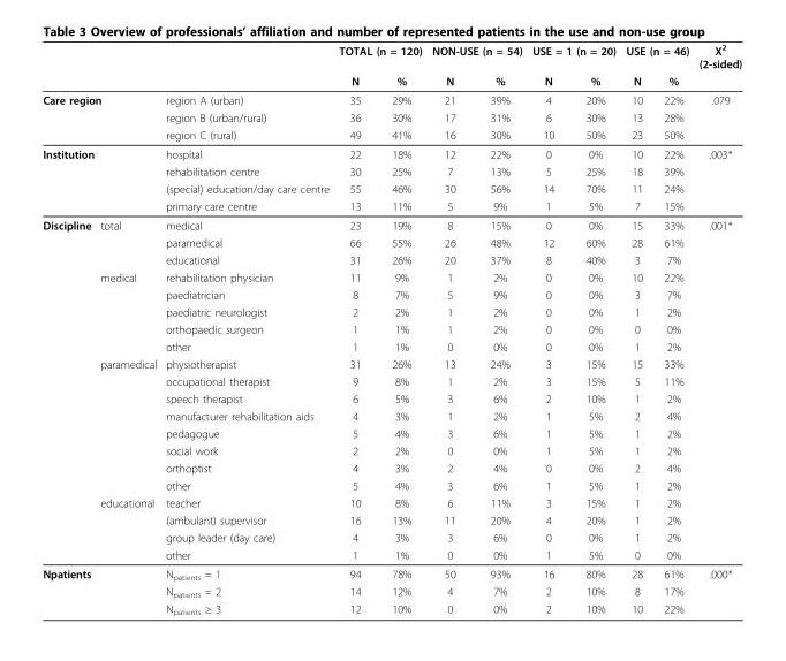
<table><thead><tr><td rowspan="2"></td><td rowspan="2"></td><td rowspan="2"></td><td colspan="2">TOTAL (n = 120)</td><td colspan="2">NON-USE (n = 54)</td><td colspan="2">USE = 1 (n = 20)</td><td colspan="2">USE (n = 46)</td><td rowspan="2">X<sup>2</sup> (2-sided)</td></tr><tr><td>N</td><td>%</td><td>N</td><td>%</td><td>N</td><td>%</td><td>N</td><td>%</td></tr></thead><tbody><tr><td colspan="2">Care region</td><td>region A (urban)</td><td>35</td><td>29%</td><td>21</td><td>39%</td><td>4</td><td>20%</td><td>10</td><td>22%</td><td>.079</td></tr><tr><td></td><td></td><td>region B (urban/rural)</td><td>36</td><td>30%</td><td>17</td><td>31%</td><td>6</td><td>30%</td><td>13</td><td>28%</td><td></td></tr><tr><td></td><td></td><td>region C (rural)</td><td>49</td><td>41%</td><td>16</td><td>30%</td><td>10</td><td>50%</td><td>23</td><td>50%</td><td></td></tr><tr><td colspan="2">Institution</td><td>hospital</td><td>22</td><td>18%</td><td>12</td><td>22%</td><td>0</td><td>0%</td><td>10</td><td>22%</td><td>.003*</td></tr><tr><td></td><td></td><td>rehabilitation centre</td><td>30</td><td>25%</td><td>7</td><td>13%</td><td>5</td><td>25%</td><td>18</td><td>39%</td><td></td></tr><tr><td></td><td></td><td>(special) education/day care centre</td><td>55</td><td>46%</td><td>30</td><td>56%</td><td>14</td><td>70%</td><td>11</td><td>24%</td><td></td></tr><tr><td></td><td></td><td>primary care centre</td><td>13</td><td>11%</td><td>5</td><td>9%</td><td>1</td><td>5%</td><td>7</td><td>15%</td><td></td></tr><tr><td rowspan="20">Discipline</td><td>total</td><td>medical</td><td>23</td><td>19%</td><td>8</td><td>15%</td><td>0</td><td>0%</td><td>15</td><td>33%</td><td>.001*</td></tr><tr><td></td><td>paramedical</td><td>66</td><td>55%</td><td>26</td><td>48%</td><td>12</td><td>60%</td><td>28</td><td>61%</td><td></td></tr><tr><td></td><td>educational</td><td>31</td><td>26%</td><td>20</td><td>37%</td><td>8</td><td>40%</td><td>3</td><td>7%</td><td></td></tr><tr><td>medical</td><td>rehabilitation physician</td><td>11</td><td>9%</td><td>1</td><td>2%</td><td>0</td><td>0%</td><td>10</td><td>22%</td><td></td></tr><tr><td></td><td>paediatrician</td><td>8</td><td>7%</td><td>5</td><td>9%</td><td>0</td><td>0%</td><td>3</td><td>7%</td><td></td></tr><tr><td></td><td>paediatric neurologist</td><td>2</td><td>2%</td><td>1</td><td>2%</td><td>0</td><td>0%</td><td>1</td><td>2%</td><td></td></tr><tr><td></td><td>orthopaedic surgeon</td><td>1</td><td>1%</td><td>1</td><td>2%</td><td>0</td><td>0%</td><td>0</td><td>0%</td><td></td></tr><tr><td></td><td>other</td><td>1</td><td>1%</td><td>0</td><td>0%</td><td>0</td><td>0%</td><td>1</td><td>2%</td><td></td></tr><tr><td>paramedical</td><td>physiotherapist</td><td>31</td><td>26%</td><td>13</td><td>24%</td><td>3</td><td>15%</td><td>15</td><td>33%</td><td></td></tr><tr><td></td><td>occupational therapist</td><td>9</td><td>8%</td><td>1</td><td>2%</td><td>3</td><td>15%</td><td>5</td><td>11%</td><td></td></tr><tr><td></td><td>speech therapist</td><td>6</td><td>5%</td><td>3</td><td>6%</td><td>2</td><td>10%</td><td>1</td><td>2%</td><td></td></tr><tr><td></td><td>manufacturer rehabilitation aids</td><td>4</td><td>3%</td><td>1</td><td>2%</td><td>1</td><td>5%</td><td>2</td><td>4%</td><td></td></tr><tr><td></td><td>pedagogue</td><td>5</td><td>4%</td><td>3</td><td>6%</td><td>1</td><td>5%</td><td>1</td><td>2%</td><td></td></tr><tr><td></td><td>social work</td><td>2</td><td>2%</td><td>0</td><td>0%</td><td>1</td><td>5%</td><td>1</td><td>2%</td><td></td></tr><tr><td></td><td>orthoptist</td><td>4</td><td>3%</td><td>2</td><td>4%</td><td>0</td><td>0%</td><td>2</td><td>4%</td><td></td></tr><tr><td></td><td>other</td><td>5</td><td>4%</td><td>3</td><td>6%</td><td>1</td><td>5%</td><td>1</td><td>2%</td><td></td></tr><tr><td>educational</td><td>teacher</td><td>10</td><td>8%</td><td>6</td><td>11%</td><td>3</td><td>15%</td><td>1</td><td>2%</td><td></td></tr><tr><td></td><td>(ambulant) supervisor</td><td>16</td><td>13%</td><td>11</td><td>20%</td><td>4</td><td>20%</td><td>1</td><td>2%</td><td></td></tr><tr><td></td><td>group leader (day care)</td><td>4</td><td>3%</td><td>3</td><td>6%</td><td>0</td><td>0%</td><td>1</td><td>2%</td><td></td></tr><tr><td></td><td>other</td><td>1</td><td>1%</td><td>0</td><td>0%</td><td>1</td><td>5%</td><td>0</td><td>0%</td><td></td></tr><tr><td colspan="2">Npatients</td><td>N<sub>patients</sub> = 1</td><td>94</td><td>78%</td><td>50</td><td>93%</td><td>16</td><td>80%</td><td>28</td><td>61%</td><td>.000*</td></tr><tr><td></td><td></td><td>N<sub>patients</sub> = 2</td><td>14</td><td>12%</td><td>4</td><td>7%</td><td>2</td><td>10%</td><td>8</td><td>17%</td><td></td></tr><tr><td></td><td></td><td>N<sub>patients</sub> ≥ 3</td><td>12</td><td>10%</td><td>0</td><td>0%</td><td>2</td><td>10%</td><td>10</td><td>22%</td><td></td></tr></tbody></table>